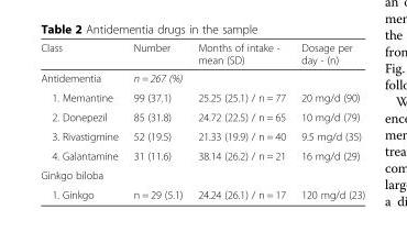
<table><thead><tr><td>Class</td><td>Number</td><td>Months of intake - mean (SD)</td><td>Dosage per day - (n)</td></tr></thead><tbody><tr><td>Antidementia</td><td>n = 267 (%)</td><td></td><td></td></tr><tr><td>1. Memantine</td><td>99 (37.1)</td><td>25.25 (25.1) / n = 77</td><td>20 mg/d (90)</td></tr><tr><td>2. Donepezil</td><td>85 (31.8)</td><td>24.72 (22.5) / n = 65</td><td>10 mg/d (79)</td></tr><tr><td>3. Rivastigmine</td><td>52 (19.5)</td><td>21.33 (19.9) / n = 40</td><td>9.5 mg/d (35)</td></tr><tr><td>4. Galantamine</td><td>31 (11.6)</td><td>38.14 (26.2) / n = 21</td><td>16 mg/d (29)</td></tr><tr><td colspan="4">Ginkgo biloba</td></tr><tr><td>1. Ginkgo</td><td>n = 29 (5.1)</td><td>24.24 (26.1) / n = 17</td><td>120 mg/d (23)</td></tr></tbody></table>